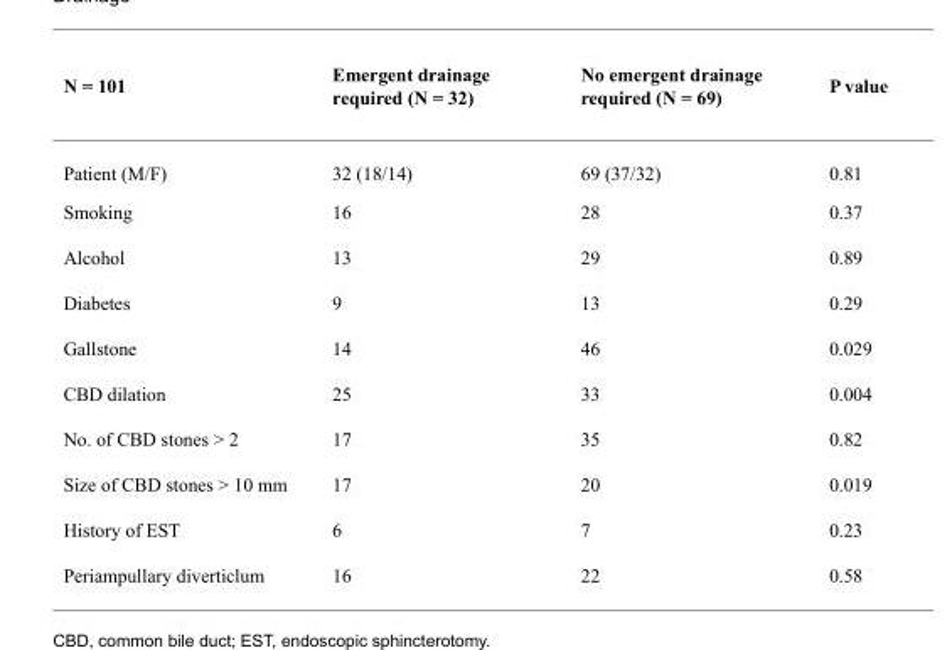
<table><thead><tr><td>N = 101</td><td>Emergent drainage required (N = 32)</td><td>No emergent drainage required (N = 69)</td><td>P value</td></tr></thead><tbody><tr><td>Patient (M/F)</td><td>32 (18/14)</td><td>69 (37/32)</td><td>0.81</td></tr><tr><td>Smoking</td><td>16</td><td>28</td><td>0.37</td></tr><tr><td>Alcohol</td><td>13</td><td>29</td><td>0.89</td></tr><tr><td>Diabetes</td><td>9</td><td>13</td><td>0.29</td></tr><tr><td>Gallstone</td><td>14</td><td>46</td><td>0.029</td></tr><tr><td>CBD dilation</td><td>25</td><td>33</td><td>0.004</td></tr><tr><td>No. of CBD stones &gt; 2</td><td>17</td><td>35</td><td>0.82</td></tr><tr><td>Size of CBD stones &gt; 10 mm</td><td>17</td><td>20</td><td>0.019</td></tr><tr><td>History of EST</td><td>6</td><td>7</td><td>0.23</td></tr><tr><td>Periampullary diverticlum</td><td>16</td><td>22</td><td>0.58</td></tr></tbody></table>